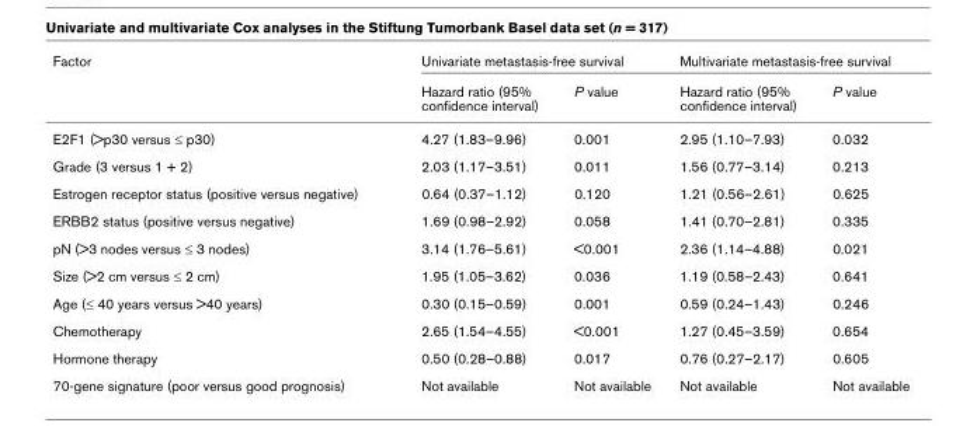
<table><thead><tr><td rowspan="2">Factor</td><td colspan="2">Univariate metastasis-free survival</td><td colspan="2">Multivariate metastasis-free survival</td></tr><tr><td>Hazard ratio (95% confidence interval)</td><td>P value</td><td>Hazard ratio (95% confidence interval)</td><td>P value</td></tr></thead><tbody><tr><td>E2F1 (&gt;p30 versus ≤ p30)</td><td>4.27 (1.83–9.96)</td><td>0.001</td><td>2.95 (1.10–7.93)</td><td>0.032</td></tr><tr><td>Grade (3 versus 1 + 2)</td><td>2.03 (1.17–3.51)</td><td>0.011</td><td>1.56 (0.77–3.14)</td><td>0.213</td></tr><tr><td>Estrogen receptor status (positive versus negative)</td><td>0.64 (0.37–1.12)</td><td>0.120</td><td>1.21 (0.56–2.61)</td><td>0.625</td></tr><tr><td>ERBB2 status (positive versus negative)</td><td>1.69 (0.98–2.92)</td><td>0.058</td><td>1.41 (0.70–2.81)</td><td>0.335</td></tr><tr><td>pN (&gt;3 nodes versus ≤ 3 nodes)</td><td>3.14 (1.76–5.61)</td><td>&lt;0.001</td><td>2.36 (1.14–4.88)</td><td>0.021</td></tr><tr><td>Size (&gt;2 cm versus ≤ 2 cm)</td><td>1.95 (1.05–3.62)</td><td>0.036</td><td>1.19 (0.58–2.43)</td><td>0.641</td></tr><tr><td>Age (≤ 40 years versus &gt;40 years)</td><td>0.30 (0.15–0.59)</td><td>0.001</td><td>0.59 (0.24–1.43)</td><td>0.246</td></tr><tr><td>Chemotherapy</td><td>2.65 (1.54–4.55)</td><td>&lt;0.001</td><td>1.27 (0.45–3.59)</td><td>0.654</td></tr><tr><td>Hormone therapy</td><td>0.50 (0.28–0.88)</td><td>0.017</td><td>0.76 (0.27–2.17)</td><td>0.605</td></tr><tr><td>70-gene signature (poor versus good prognosis)</td><td>Not available</td><td>Not available</td><td>Not available</td><td>Not available</td></tr></tbody></table>